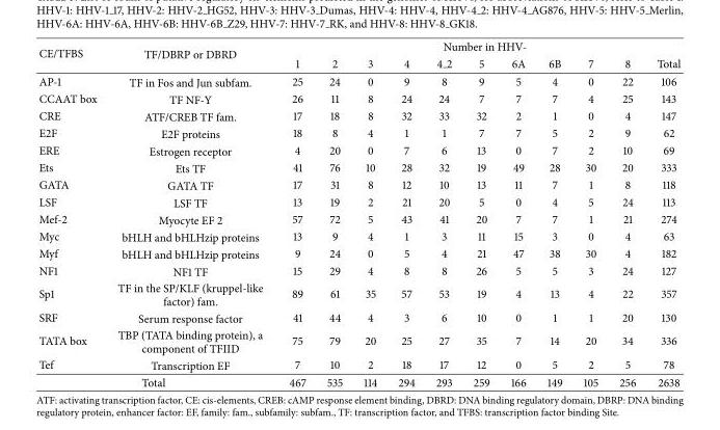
<table><thead><tr><td rowspan="2">CE/TFBS</td><td rowspan="2">TF/DBRP or DBRD</td><td colspan="11">Number in HHV-</td></tr><tr><td>1</td><td>2</td><td>3</td><td>4</td><td>4 2</td><td>5</td><td>6A</td><td>6B</td><td>7</td><td>8</td><td>Total</td></tr></thead><tbody><tr><td>AP-1</td><td>TF in Fos and Jun subfam.</td><td>25</td><td>24</td><td>0</td><td>9</td><td>8</td><td>9</td><td>5</td><td>4</td><td>0</td><td>22</td><td>106</td></tr><tr><td>CCAAT box</td><td>TF NF-Y</td><td>26</td><td>11</td><td>8</td><td>24</td><td>24</td><td>7</td><td>7</td><td>7</td><td>4</td><td>25</td><td>143</td></tr><tr><td>CRE</td><td>ATF/CREB TF fam.</td><td>17</td><td>18</td><td>8</td><td>32</td><td>33</td><td>32</td><td>2</td><td>1</td><td>0</td><td>4</td><td>147</td></tr><tr><td>E2F</td><td>E2F proteins</td><td>18</td><td>8</td><td>4</td><td>1</td><td>1</td><td>7</td><td>7</td><td>5</td><td>2</td><td>9</td><td>62</td></tr><tr><td>ERE</td><td>Estrogen receptor</td><td>4</td><td>20</td><td>0</td><td>7</td><td>6</td><td>13</td><td>0</td><td>7</td><td>2</td><td>10</td><td>69</td></tr><tr><td>Ets</td><td>Ets TF</td><td>41</td><td>76</td><td>10</td><td>28</td><td>32</td><td>19</td><td>49</td><td>28</td><td>30</td><td>20</td><td>333</td></tr><tr><td>GATA</td><td>GATA TF</td><td>17</td><td>31</td><td>8</td><td>12</td><td>10</td><td>13</td><td>11</td><td>7</td><td>1</td><td>8</td><td>118</td></tr><tr><td>LSF</td><td>LSF TF</td><td>13</td><td>19</td><td>2</td><td>21</td><td>20</td><td>5</td><td>0</td><td>4</td><td>5</td><td>24</td><td>113</td></tr><tr><td>Mef-2</td><td>Myocyte EF 2</td><td>57</td><td>72</td><td>5</td><td>43</td><td>41</td><td>20</td><td>7</td><td>7</td><td>1</td><td>21</td><td>274</td></tr><tr><td>Myc</td><td>bHLH and bHLHzip proteins</td><td>13</td><td>9</td><td>4</td><td>1</td><td>3</td><td>11</td><td>15</td><td>3</td><td>0</td><td>4</td><td>63</td></tr><tr><td>Myf</td><td>bHLH and bHLHzip proteins</td><td>9</td><td>24</td><td>0</td><td>5</td><td>4</td><td>21</td><td>47</td><td>38</td><td>30</td><td>4</td><td>182</td></tr><tr><td>NF1</td><td>NF1 TF</td><td>15</td><td>29</td><td>4</td><td>8</td><td>8</td><td>26</td><td>5</td><td>5</td><td>3</td><td>24</td><td>127</td></tr><tr><td>Sp1</td><td>TF in the SP/KLF (kruppel-like factor) fam.</td><td>89</td><td>61</td><td>35</td><td>57</td><td>53</td><td>19</td><td>4</td><td>13</td><td>4</td><td>22</td><td>357</td></tr><tr><td>SRF</td><td>Serum response factor</td><td>41</td><td>44</td><td>4</td><td>3</td><td>6</td><td>10</td><td>0</td><td>1</td><td>1</td><td>20</td><td>130</td></tr><tr><td>TATA box</td><td>TBP (TATA binding protein), a component of TFIID</td><td>75</td><td>79</td><td>20</td><td>25</td><td>27</td><td>35</td><td>7</td><td>14</td><td>20</td><td>34</td><td>336</td></tr><tr><td>Tef</td><td>Transcription EF</td><td>7</td><td>10</td><td>2</td><td>18</td><td>17</td><td>12</td><td>0</td><td>5</td><td>2</td><td>5</td><td>78</td></tr><tr><td colspan="2">Total</td><td>467</td><td>535</td><td>114</td><td>294</td><td>293</td><td>259</td><td>166</td><td>149</td><td>105</td><td>256</td><td>2638</td></tr></tbody></table>